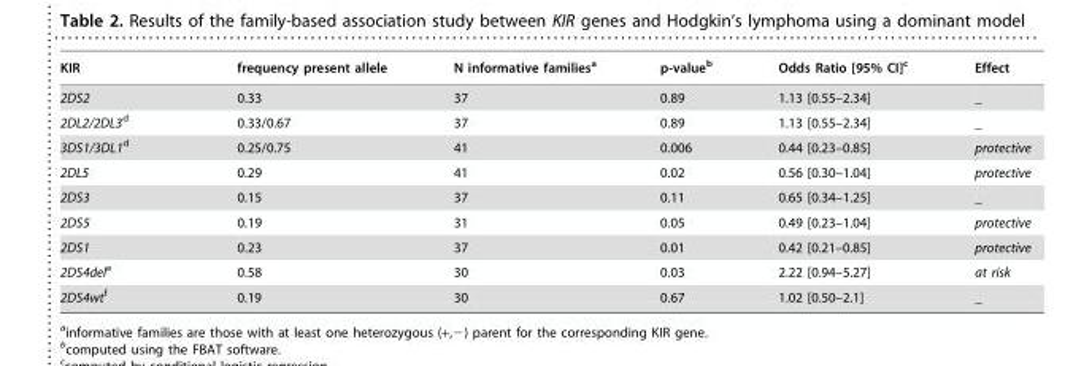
<table><thead><tr><td>KIR</td><td>frequency present allele</td><td>N informative families<sup>a</sup></td><td>p-value<sup>b</sup></td><td>Odds Ratio [95% CI]<sup>c</sup></td><td>Effect</td></tr></thead><tbody><tr><td>2DS2</td><td>0.33</td><td>37</td><td>0.89</td><td>1.13 [0.55–2.34]</td><td>_</td></tr><tr><td>2DL2/2DL3d</td><td>0.33/0.67</td><td>37</td><td>0.89</td><td>1.13 [0.55–2.34]</td><td>_</td></tr><tr><td>3DS1/3DL1d</td><td>0.25/0.75</td><td>41</td><td>0.006</td><td>0.44 [0.23–0.85]</td><td>protective</td></tr><tr><td>2DL5</td><td>0.29</td><td>41</td><td>0.02</td><td>0.56 [0.30–1.04]</td><td>protective</td></tr><tr><td>2DS3</td><td>0.15</td><td>37</td><td>0.11</td><td>0.65 [0.34–1.25]</td><td>_</td></tr><tr><td>2DS5</td><td>0.19</td><td>31</td><td>0.05</td><td>0.49 [0.23–1.04]</td><td>protective</td></tr><tr><td>2DS1</td><td>0.23</td><td>37</td><td>0.01</td><td>0.42 [0.21–0.85]</td><td>protective</td></tr><tr><td>2DS4dele</td><td>0.58</td><td>30</td><td>0.03</td><td>2.22 [0.94–5.27]</td><td>at risk</td></tr><tr><td>2DS4wtf</td><td>0.19</td><td>30</td><td>0.67</td><td>1.02 [0.50–2.1]</td><td>_</td></tr></tbody></table>